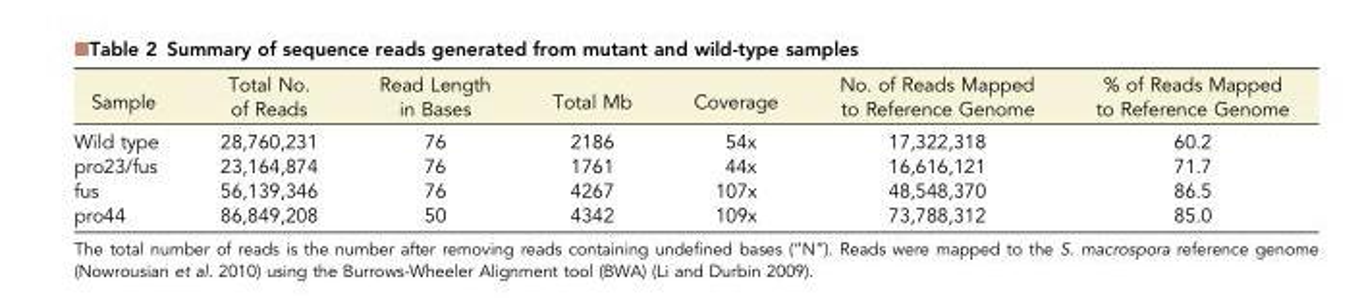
<table><thead><tr><td>Sample</td><td>Total No. of Reads</td><td>Read Length in Bases</td><td>Total Mb</td><td>Coverage</td><td>No. of Reads Mapped to Reference Genome</td><td>% of Reads Mapped to Reference Genome</td></tr></thead><tbody><tr><td>Wild type</td><td>28,760,231</td><td>76</td><td>2186</td><td>54x</td><td>17,322,318</td><td>60.2</td></tr><tr><td>pro23/fus</td><td>23,164,874</td><td>76</td><td>1761</td><td>44x</td><td>16,616,121</td><td>71.7</td></tr><tr><td>fus</td><td>56,139,346</td><td>76</td><td>4267</td><td>107x</td><td>48,548,370</td><td>86.5</td></tr><tr><td>pro44</td><td>86,849,208</td><td>50</td><td>4342</td><td>109x</td><td>73,788,312</td><td>85.0</td></tr></tbody></table>